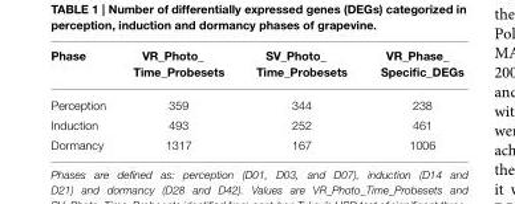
<table><thead><tr><td>Phase</td><td>VR_Photo_ Time_Probesets</td><td>SV_Photo_ Time_Probesets</td><td>VR_Phase_ Specific_DEGs</td></tr></thead><tbody><tr><td>Perception</td><td>359</td><td>344</td><td>238</td></tr><tr><td>Induction</td><td>493</td><td>252</td><td>461</td></tr><tr><td>Dormancy</td><td>1317</td><td>167</td><td>1006</td></tr></tbody></table>